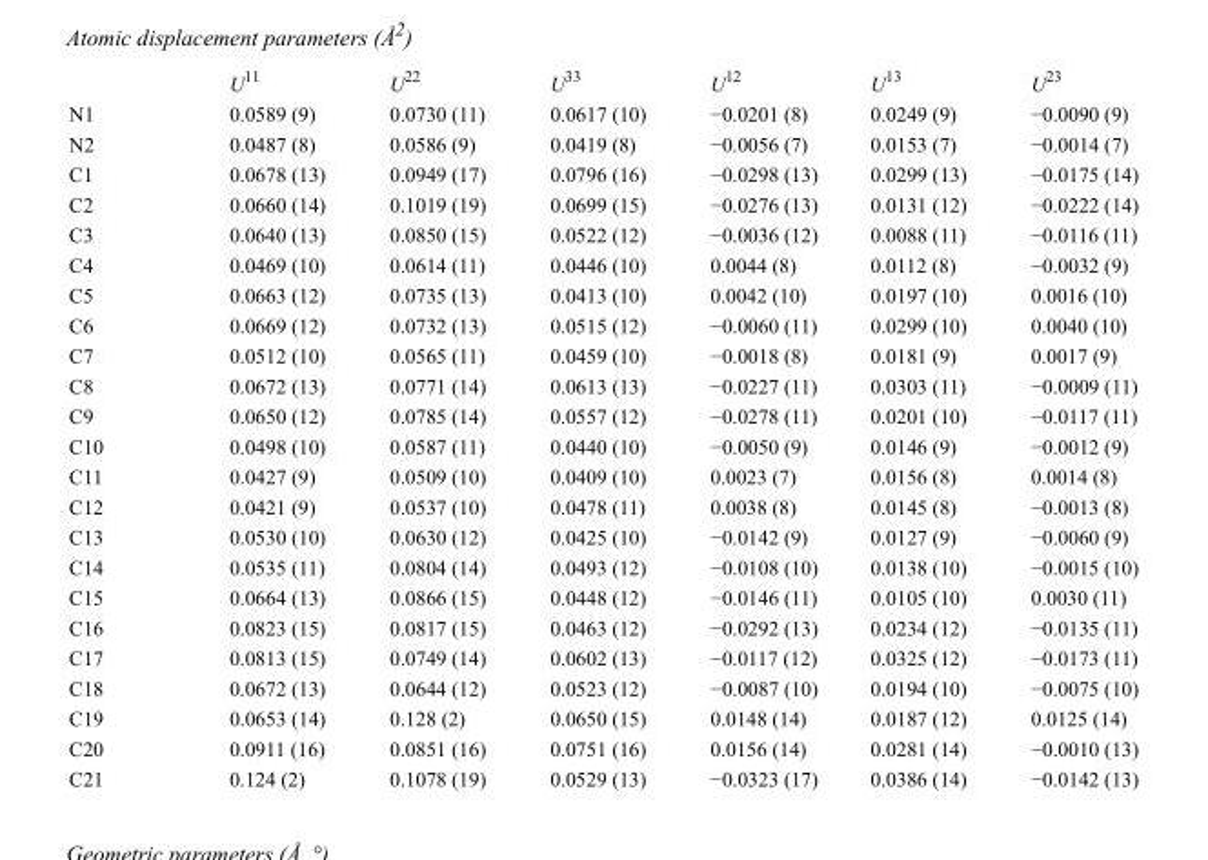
<table><thead><tr><td></td><td>U<sup>11</sup></td><td>U<sup>22</sup></td><td>U<sup>33</sup></td><td>U<sup>12</sup></td><td>U<sup>13</sup></td><td>U<sup>23</sup></td></tr></thead><tbody><tr><td>N1</td><td>0.0589 (9)</td><td>0.0730 (11)</td><td>0.0617 (10)</td><td>−0.0201 (8)</td><td>0.0249 (9)</td><td>−0.0090 (9)</td></tr><tr><td>N2</td><td>0.0487 (8)</td><td>0.0586 (9)</td><td>0.0419 (8)</td><td>−0.0056 (7)</td><td>0.0153 (7)</td><td>−0.0014 (7)</td></tr><tr><td>C1</td><td>0.0678 (13)</td><td>0.0949 (17)</td><td>0.0796 (16)</td><td>−0.0298 (13)</td><td>0.0299 (13)</td><td>−0.0175 (14)</td></tr><tr><td>C2</td><td>0.0660 (14)</td><td>0.1019 (19)</td><td>0.0699 (15)</td><td>−0.0276 (13)</td><td>0.0131 (12)</td><td>−0.0222 (14)</td></tr><tr><td>C3</td><td>0.0640 (13)</td><td>0.0850 (15)</td><td>0.0522 (12)</td><td>−0.0036 (12)</td><td>0.0088 (11)</td><td>−0.0116 (11)</td></tr><tr><td>C4</td><td>0.0469 (10)</td><td>0.0614 (11)</td><td>0.0446 (10)</td><td>0.0044 (8)</td><td>0.0112 (8)</td><td>−0.0032 (9)</td></tr><tr><td>C5</td><td>0.0663 (12)</td><td>0.0735 (13)</td><td>0.0413 (10)</td><td>0.0042 (10)</td><td>0.0197 (10)</td><td>0.0016 (10)</td></tr><tr><td>C6</td><td>0.0669 (12)</td><td>0.0732 (13)</td><td>0.0515 (12)</td><td>−0.0060 (11)</td><td>0.0299 (10)</td><td>0.0040 (10)</td></tr><tr><td>C7</td><td>0.0512 (10)</td><td>0.0565 (11)</td><td>0.0459 (10)</td><td>−0.0018 (8)</td><td>0.0181 (9)</td><td>0.0017 (9)</td></tr><tr><td>C8</td><td>0.0672 (13)</td><td>0.0771 (14)</td><td>0.0613 (13)</td><td>−0.0227 (11)</td><td>0.0303 (11)</td><td>−0.0009 (11)</td></tr><tr><td>C9</td><td>0.0650 (12)</td><td>0.0785 (14)</td><td>0.0557 (12)</td><td>−0.0278 (11)</td><td>0.0201 (10)</td><td>−0.0117 (11)</td></tr><tr><td>C10</td><td>0.0498 (10)</td><td>0.0587 (11)</td><td>0.0440 (10)</td><td>−0.0050 (9)</td><td>0.0146 (9)</td><td>−0.0012 (9)</td></tr><tr><td>C11</td><td>0.0427 (9)</td><td>0.0509 (10)</td><td>0.0409 (10)</td><td>0.0023 (7)</td><td>0.0156 (8)</td><td>0.0014 (8)</td></tr><tr><td>C12</td><td>0.0421 (9)</td><td>0.0537 (10)</td><td>0.0478 (11)</td><td>0.0038 (8)</td><td>0.0145 (8)</td><td>−0.0013 (8)</td></tr><tr><td>C13</td><td>0.0530 (10)</td><td>0.0630 (12)</td><td>0.0425 (10)</td><td>−0.0142 (9)</td><td>0.0127 (9)</td><td>−0.0060 (9)</td></tr><tr><td>C14</td><td>0.0535 (11)</td><td>0.0804 (14)</td><td>0.0493 (12)</td><td>−0.0108 (10)</td><td>0.0138 (10)</td><td>−0.0015 (10)</td></tr><tr><td>C15</td><td>0.0664 (13)</td><td>0.0866 (15)</td><td>0.0448 (12)</td><td>−0.0146 (11)</td><td>0.0105 (10)</td><td>0.0030 (11)</td></tr><tr><td>C16</td><td>0.0823 (15)</td><td>0.0817 (15)</td><td>0.0463 (12)</td><td>−0.0292 (13)</td><td>0.0234 (12)</td><td>−0.0135 (11)</td></tr><tr><td>C17</td><td>0.0813 (15)</td><td>0.0749 (14)</td><td>0.0602 (13)</td><td>−0.0117 (12)</td><td>0.0325 (12)</td><td>−0.0173 (11)</td></tr><tr><td>C18</td><td>0.0672 (13)</td><td>0.0644 (12)</td><td>0.0523 (12)</td><td>−0.0087 (10)</td><td>0.0194 (10)</td><td>−0.0075 (10)</td></tr><tr><td>C19</td><td>0.0653 (14)</td><td>0.128 (2)</td><td>0.0650 (15)</td><td>0.0148 (14)</td><td>0.0187 (12)</td><td>0.0125 (14)</td></tr><tr><td>C20</td><td>0.0911 (16)</td><td>0.0851 (16)</td><td>0.0751 (16)</td><td>0.0156 (14)</td><td>0.0281 (14)</td><td>−0.0010 (13)</td></tr><tr><td>C21</td><td>0.124 (2)</td><td>0.1078 (19)</td><td>0.0529 (13)</td><td>−0.0323 (17)</td><td>0.0386 (14)</td><td>−0.0142 (13)</td></tr></tbody></table>